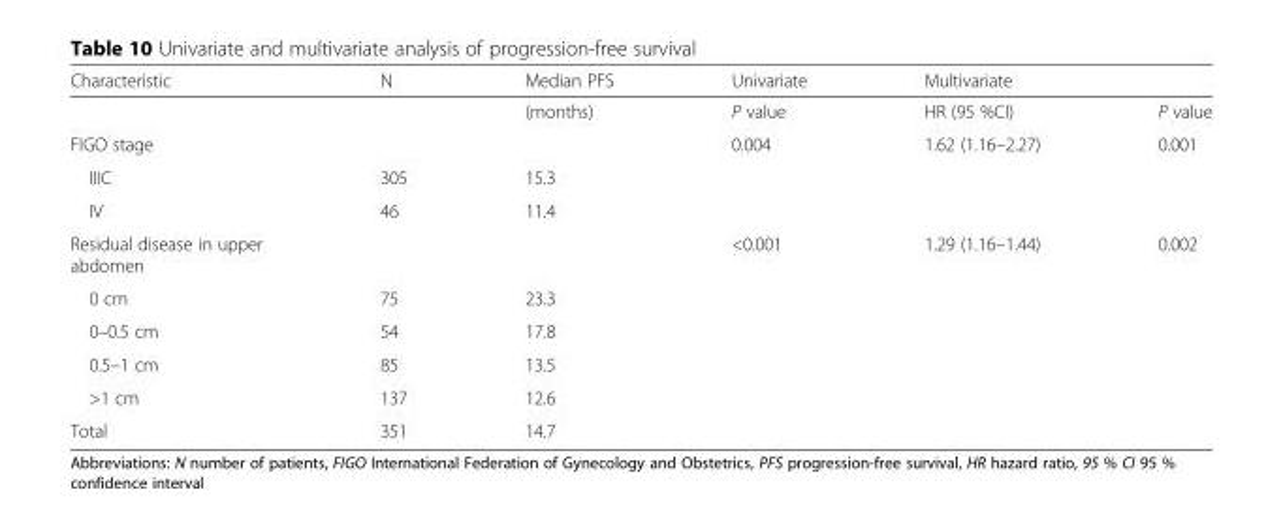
<table><thead><tr><td rowspan="2">Characteristic</td><td rowspan="2">N</td><td rowspan="2">Median PFS (months)</td><td rowspan="2">Univariate P value</td><td colspan="2">Multivariate</td></tr><tr><td>HR (95 %CI)</td><td>P value</td></tr></thead><tbody><tr><td>FIGO stage</td><td></td><td></td><td>0.004</td><td>1.62 (1.16–2.27)</td><td>0.001</td></tr><tr><td>IIIC</td><td>305</td><td>15.3</td><td></td><td></td><td></td></tr><tr><td>IV</td><td>46</td><td>11.4</td><td></td><td></td><td></td></tr><tr><td>Residual disease in upper abdomen</td><td></td><td></td><td>&lt;0.001</td><td>1.29 (1.16–1.44)</td><td>0.002</td></tr><tr><td>0 cm</td><td>75</td><td>23.3</td><td></td><td></td><td></td></tr><tr><td>0–0.5 cm</td><td>54</td><td>17.8</td><td></td><td></td><td></td></tr><tr><td>0.5–1 cm</td><td>85</td><td>13.5</td><td></td><td></td><td></td></tr><tr><td>&gt;1 cm</td><td>137</td><td>12.6</td><td></td><td></td><td></td></tr><tr><td>Total</td><td>351</td><td>14.7</td><td></td><td></td><td></td></tr></tbody></table>